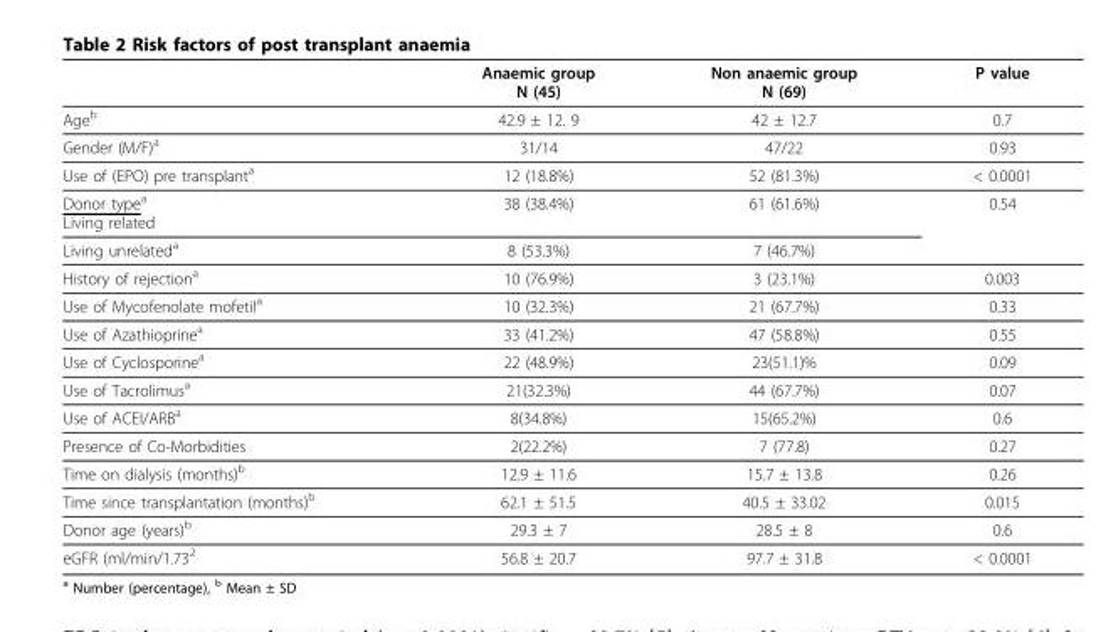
<table><thead><tr><td></td><td>Anaemic group N (45)</td><td>Non anaemic group N (69)</td><td>P value</td></tr></thead><tbody><tr><td>Age<sup>b</sup></td><td>42.9 ± 12. 9</td><td>42 ± 12.7</td><td>0.7</td></tr><tr><td>Gender (M/F)<sup>a</sup></td><td>31/14</td><td>47/22</td><td>0.93</td></tr><tr><td>Use of (EPO) pre transplant<sup>a</sup></td><td>12 (18.8%)</td><td>52 (81.3%)</td><td>&lt; 0.0001</td></tr><tr><td>Donor type<sup>a</sup> Living related</td><td>38 (38.4%)</td><td>61 (61.6%)</td><td>0.54</td></tr><tr><td>Living unrelated<sup>a</sup></td><td>8 (53.3%)</td><td>7 (46.7%)</td><td></td></tr><tr><td>History of rejection<sup>a</sup></td><td>10 (76.9%)</td><td>3 (23.1%)</td><td>0.003</td></tr><tr><td>Use of Mycofenolate mofetil<sup>a</sup></td><td>10 (32.3%)</td><td>21 (67.7%)</td><td>0.33</td></tr><tr><td>Use of Azathioprine<sup>a</sup></td><td>33 (41.2%)</td><td>47 (58.8%)</td><td>0.55</td></tr><tr><td>Use of Cyclosporine<sup>a</sup></td><td>22 (48.9%)</td><td>23(51.1)%</td><td>0.09</td></tr><tr><td>Use of Tacrolimus<sup>a</sup></td><td>21(32.3%)</td><td>44 (67.7%)</td><td>0.07</td></tr><tr><td>Use of ACEI/ARB<sup>a</sup></td><td>8(34.8%)</td><td>15(65.2%)</td><td>0.6</td></tr><tr><td>Presence of Co-Morbidities</td><td>2(22.2%)</td><td>7 (77.8)</td><td>0.27</td></tr><tr><td>Time on dialysis (months)<sup>b</sup></td><td>12.9 ± 11.6</td><td>15.7 ± 13.8</td><td>0.26</td></tr><tr><td>Time since transplantation (months)<sup>b</sup></td><td>62.1 ± 51.5</td><td>40.5 ± 33.02</td><td>0.015</td></tr><tr><td>Donor age (years)<sup>b</sup></td><td>29.3 ± 7</td><td>28.5 ± 8</td><td>0.6</td></tr><tr><td>eGFR (ml/min/1.73<sup>2</sup></td><td>56.8 ± 20.7</td><td>97.7 ± 31.8</td><td>&lt; 0.0001</td></tr></tbody></table>